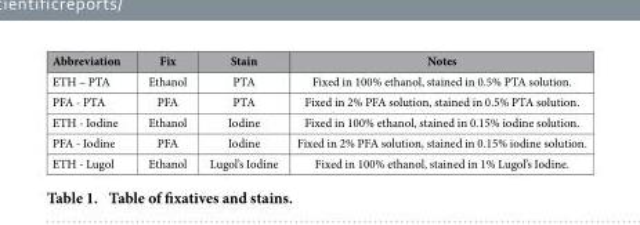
<table><thead><tr><td>Abbreviation</td><td>Fix</td><td>Stain</td><td>Notes</td></tr></thead><tbody><tr><td>ETH – PTA</td><td>Ethanol</td><td>PTA</td><td>Fixed in 100% ethanol, stained in 0.5% PTA solution.</td></tr><tr><td>PFA - PTA</td><td>PFA</td><td>PTA</td><td>Fixed in 2% PFA solution, stained in 0.5% PTA solution.</td></tr><tr><td>ETH - Iodine</td><td>Ethanol</td><td>Iodine</td><td>Fixed in 100% ethanol, stained in 0.15% iodine solution.</td></tr><tr><td>PFA - Iodine</td><td>PFA</td><td>Iodine</td><td>Fixed in 2% PFA solution, stained in 0.15% iodine solution.</td></tr><tr><td>ETH - Lugol</td><td>Ethanol</td><td>Lugol’s Iodine</td><td>Fixed in 100% ethanol, stained in 1% Lugol’s Iodine.</td></tr></tbody></table>